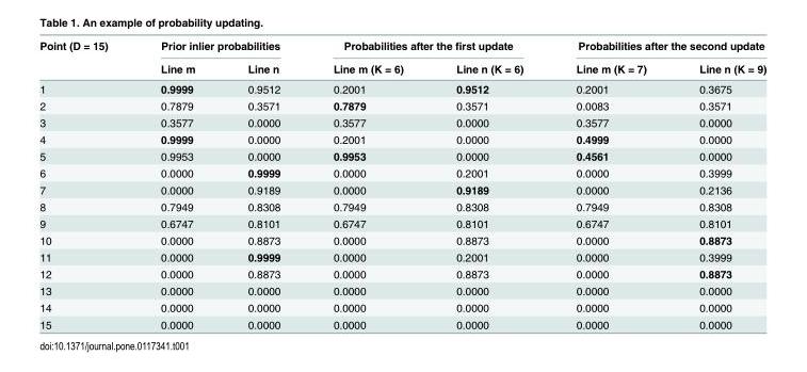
<table><thead><tr><td rowspan="2">Point (D = 15)</td><td colspan="2">Prior inlier probabilities</td><td colspan="2">Probabilities after the first update</td><td colspan="2">Probabilities after the second update</td></tr><tr><td>Line m</td><td>Line n</td><td>Line m (K = 6)</td><td>Line n (K = 6)</td><td>Line m (K = 7)</td><td>Line n (K = 9)</td></tr></thead><tbody><tr><td>1</td><td>0.9999</td><td>0.9512</td><td>0.2001</td><td>0.9512</td><td>0.2001</td><td>0.3675</td></tr><tr><td>2</td><td>0.7879</td><td>0.3571</td><td>0.7879</td><td>0.3571</td><td>0.0083</td><td>0.3571</td></tr><tr><td>3</td><td>0.3577</td><td>0.0000</td><td>0.3577</td><td>0.0000</td><td>0.3577</td><td>0.0000</td></tr><tr><td>4</td><td>0.9999</td><td>0.0000</td><td>0.2001</td><td>0.0000</td><td>0.4999</td><td>0.0000</td></tr><tr><td>5</td><td>0.9953</td><td>0.0000</td><td>0.9953</td><td>0.0000</td><td>0.4561</td><td>0.0000</td></tr><tr><td>6</td><td>0.0000</td><td>0.9999</td><td>0.0000</td><td>0.2001</td><td>0.0000</td><td>0.3999</td></tr><tr><td>7</td><td>0.0000</td><td>0.9189</td><td>0.0000</td><td>0.9189</td><td>0.0000</td><td>0.2136</td></tr><tr><td>8</td><td>0.7949</td><td>0.8308</td><td>0.7949</td><td>0.8308</td><td>0.7949</td><td>0.8308</td></tr><tr><td>9</td><td>0.6747</td><td>0.8101</td><td>0.6747</td><td>0.8101</td><td>0.6747</td><td>0.8101</td></tr><tr><td>10</td><td>0.0000</td><td>0.8873</td><td>0.0000</td><td>0.8873</td><td>0.0000</td><td>0.8873</td></tr><tr><td>11</td><td>0.0000</td><td>0.9999</td><td>0.0000</td><td>0.2001</td><td>0.0000</td><td>0.3999</td></tr><tr><td>12</td><td>0.0000</td><td>0.8873</td><td>0.0000</td><td>0.8873</td><td>0.0000</td><td>0.8873</td></tr><tr><td>13</td><td>0.0000</td><td>0.0000</td><td>0.0000</td><td>0.0000</td><td>0.0000</td><td>0.0000</td></tr><tr><td>14</td><td>0.0000</td><td>0.0000</td><td>0.0000</td><td>0.0000</td><td>0.0000</td><td>0.0000</td></tr><tr><td>15</td><td>0.0000</td><td>0.0000</td><td>0.0000</td><td>0.0000</td><td>0.0000</td><td>0.0000</td></tr></tbody></table>